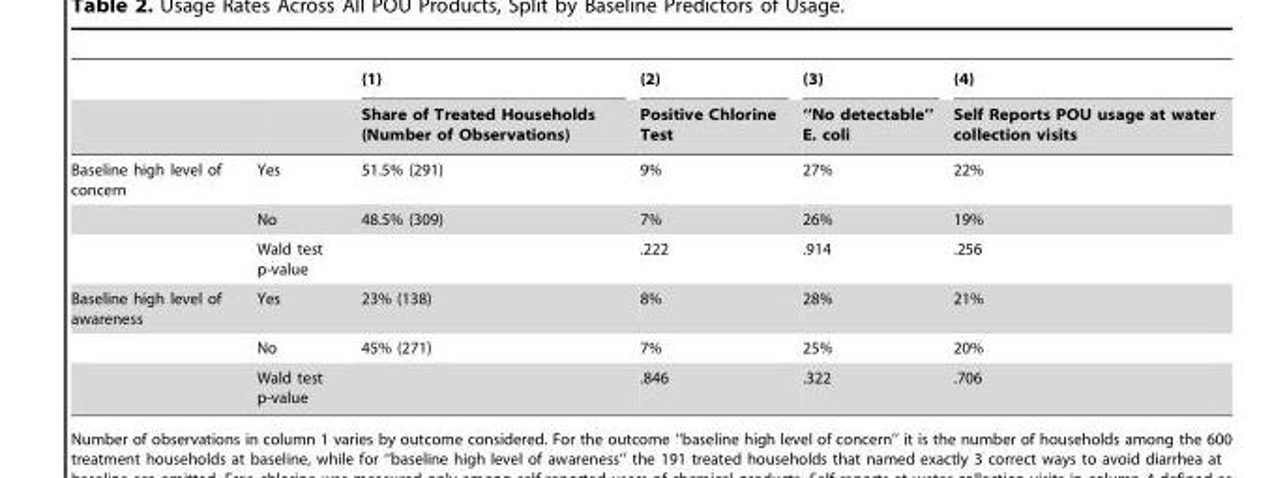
<table><thead><tr><td rowspan="2"></td><td rowspan="2"></td><td rowspan="2">(1) Share of Treated Households (Number of Observations)</td><td rowspan="2">(2) Positive Chlorine Test</td><td rowspan="2">(3) ‘‘No detectable’’ E. coli</td><td rowspan="2">(4) Self Reports POU usage at water collection visits</td></tr><tr></tr></thead><tbody><tr><td rowspan="3">Baseline high level of concern</td><td>Yes</td><td>51.5% (291)</td><td>9%</td><td>27%</td><td>22%</td></tr><tr><td>No</td><td>48.5% (309)</td><td>7%</td><td>26%</td><td>19%</td></tr><tr><td>Wald test p-value</td><td></td><td>.222</td><td>.914</td><td>.256</td></tr><tr><td rowspan="3">Baseline high level of awareness</td><td>Yes</td><td>23% (138)</td><td>8%</td><td>28%</td><td>21%</td></tr><tr><td>No</td><td>45% (271)</td><td>7%</td><td>25%</td><td>20%</td></tr><tr><td>Wald test p-value</td><td></td><td>.846</td><td>.322</td><td>.706</td></tr></tbody></table>